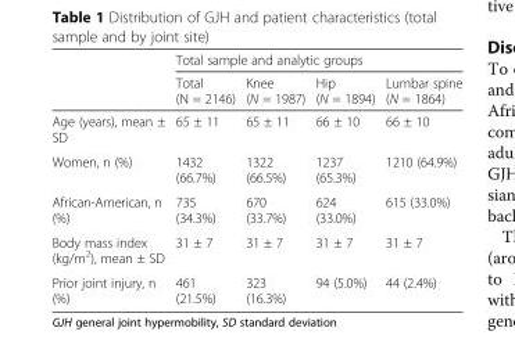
<table><thead><tr><td rowspan="2"></td><td colspan="4">Total sample and analytic groups</td></tr><tr><td>Total (N = 2146)</td><td>Knee (N = 1987)</td><td>Hip (N = 1894)</td><td>Lumbar spine (N = 1864)</td></tr></thead><tbody><tr><td>Age (years), mean ± SD</td><td>65 ± 11</td><td>65 ± 11</td><td>66 ± 10</td><td>66 ± 10</td></tr><tr><td>Women, n (%)</td><td>1432 (66.7%)</td><td>1322 (66.5%)</td><td>1237 (65.3%)</td><td>1210 (64.9%)</td></tr><tr><td>African-American, n (%)</td><td>735 (34.3%)</td><td>670 (33.7%)</td><td>624 (33.0%)</td><td>615 (33.0%)</td></tr><tr><td>Body mass index (kg/m<sup>2</sup>), mean ± SD</td><td>31 ± 7</td><td>31 ± 7</td><td>31 ± 7</td><td>31 ± 7</td></tr><tr><td>Prior joint injury, n (%)</td><td>461 (21.5%)</td><td>323 (16.3%)</td><td>94 (5.0%)</td><td>44 (2.4%)</td></tr></tbody></table>